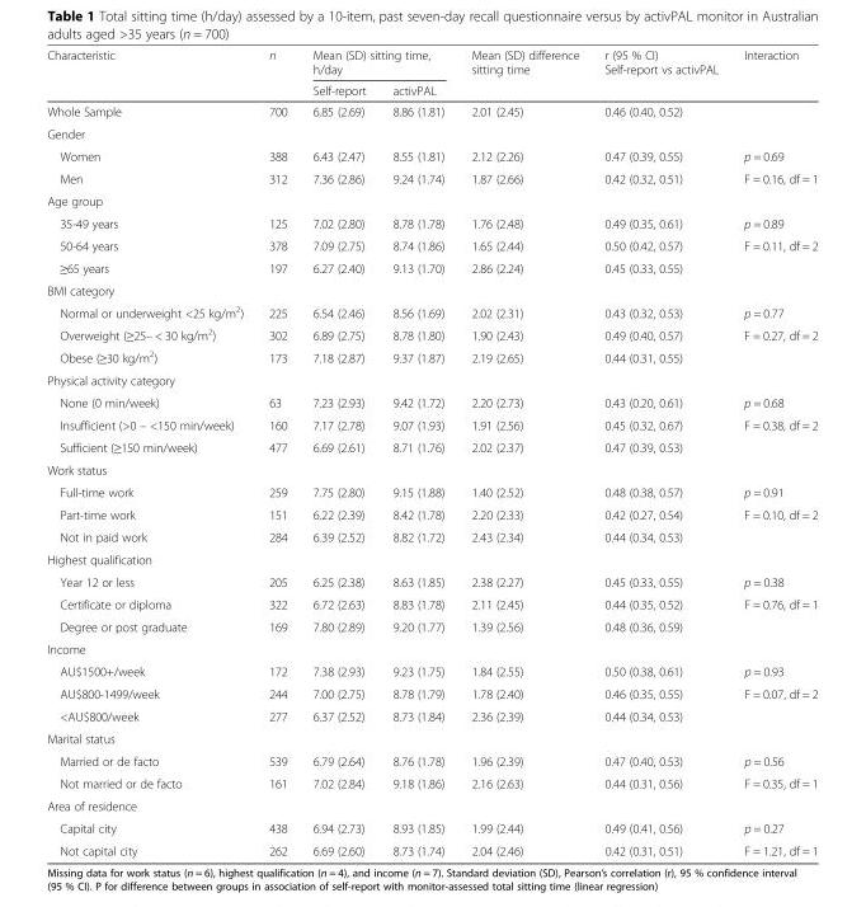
<table><thead><tr><td rowspan="2">Characteristic</td><td rowspan="2">n</td><td colspan="2">Mean (SD) sitting time, h/day</td><td rowspan="2">Mean (SD) difference sitting time</td><td rowspan="2">r (95 % CI) Self-report vs activPAL</td><td rowspan="2">Interaction</td></tr><tr><td>Self-report</td><td>activPAL</td></tr></thead><tbody><tr><td>Whole Sample</td><td>700</td><td>6.85 (2.69)</td><td>8.86 (1.81)</td><td>2.01 (2.45)</td><td>0.46 (0.40, 0.52)</td><td></td></tr><tr><td colspan="7">Gender</td></tr><tr><td>Women</td><td>388</td><td>6.43 (2.47)</td><td>8.55 (1.81)</td><td>2.12 (2.26)</td><td>0.47 (0.39, 0.55)</td><td>p = 0.69</td></tr><tr><td>Men</td><td>312</td><td>7.36 (2.86)</td><td>9.24 (1.74)</td><td>1.87 (2.66)</td><td>0.42 (0.32, 0.51)</td><td>F = 0.16, df = 1</td></tr><tr><td colspan="7">Age group</td></tr><tr><td>35-49 years</td><td>125</td><td>7.02 (2.80)</td><td>8.78 (1.78)</td><td>1.76 (2.48)</td><td>0.49 (0.35, 0.61)</td><td>p = 0.89</td></tr><tr><td>50-64 years</td><td>378</td><td>7.09 (2.75)</td><td>8.74 (1.86)</td><td>1.65 (2.44)</td><td>0.50 (0.42, 0.57)</td><td>F = 0.11, df = 2</td></tr><tr><td>≥65 years</td><td>197</td><td>6.27 (2.40)</td><td>9.13 (1.70)</td><td>2.86 (2.24)</td><td>0.45 (0.33, 0.55)</td><td></td></tr><tr><td colspan="7">BMI category</td></tr><tr><td>Normal or underweight &lt;25 kg/m<sup>2</sup>)</td><td>225</td><td>6.54 (2.46)</td><td>8.56 (1.69)</td><td>2.02 (2.31)</td><td>0.43 (0.32, 0.53)</td><td>p = 0.77</td></tr><tr><td>Overweight (≥25– &lt; 30 kg/m<sup>2</sup>)</td><td>302</td><td>6.89 (2.75)</td><td>8.78 (1.80)</td><td>1.90 (2.43)</td><td>0.49 (0.40, 0.57)</td><td>F = 0.27, df = 2</td></tr><tr><td>Obese (≥30 kg/m<sup>2</sup>)</td><td>173</td><td>7.18 (2.87)</td><td>9.37 (1.87)</td><td>2.19 (2.65)</td><td>0.44 (0.31, 0.55)</td><td></td></tr><tr><td colspan="7">Physical activity category</td></tr><tr><td>None (0 min/week)</td><td>63</td><td>7.23 (2.93)</td><td>9.42 (1.72)</td><td>2.20 (2.73)</td><td>0.43 (0.20, 0.61)</td><td>p = 0.68</td></tr><tr><td>Insufficient (&gt;0 – &lt;150 min/week)</td><td>160</td><td>7.17 (2.78)</td><td>9.07 (1.93)</td><td>1.91 (2.56)</td><td>0.45 (0.32, 0.67)</td><td>F = 0.38, df = 2</td></tr><tr><td>Sufficient (≥150 min/week)</td><td>477</td><td>6.69 (2.61)</td><td>8.71 (1.76)</td><td>2.02 (2.37)</td><td>0.47 (0.39, 0.53)</td><td></td></tr><tr><td colspan="7">Work status</td></tr><tr><td>Full-time work</td><td>259</td><td>7.75 (2.80)</td><td>9.15 (1.88)</td><td>1.40 (2.52)</td><td>0.48 (0.38, 0.57)</td><td>p = 0.91</td></tr><tr><td>Part-time work</td><td>151</td><td>6.22 (2.39)</td><td>8.42 (1.78)</td><td>2.20 (2.33)</td><td>0.42 (0.27, 0.54)</td><td>F = 0.10, df = 2</td></tr><tr><td>Not in paid work</td><td>284</td><td>6.39 (2.52)</td><td>8.82 (1.72)</td><td>2.43 (2.34)</td><td>0.44 (0.34, 0.53)</td><td></td></tr><tr><td colspan="7">Highest qualification</td></tr><tr><td>Year 12 or less</td><td>205</td><td>6.25 (2.38)</td><td>8.63 (1.85)</td><td>2.38 (2.27)</td><td>0.45 (0.33, 0.55)</td><td>p = 0.38</td></tr><tr><td>Certificate or diploma</td><td>322</td><td>6.72 (2.63)</td><td>8.83 (1.78)</td><td>2.11 (2.45)</td><td>0.44 (0.35, 0.52)</td><td>F = 0.76, df = 1</td></tr><tr><td>Degree or post graduate</td><td>169</td><td>7.80 (2.89)</td><td>9.20 (1.77)</td><td>1.39 (2.56)</td><td>0.48 (0.36, 0.59)</td><td></td></tr><tr><td colspan="7">Income</td></tr><tr><td>AU$1500+/week</td><td>172</td><td>7.38 (2.93)</td><td>9.23 (1.75)</td><td>1.84 (2.55)</td><td>0.50 (0.38, 0.61)</td><td>p = 0.93</td></tr><tr><td>AU$800-1499/week</td><td>244</td><td>7.00 (2.75)</td><td>8.78 (1.79)</td><td>1.78 (2.40)</td><td>0.46 (0.35, 0.55)</td><td>F = 0.07, df = 2</td></tr><tr><td>&lt;AU$800/week</td><td>277</td><td>6.37 (2.52)</td><td>8.73 (1.84)</td><td>2.36 (2.39)</td><td>0.44 (0.34, 0.53)</td><td></td></tr><tr><td colspan="7">Marital status</td></tr><tr><td>Married or de facto</td><td>539</td><td>6.79 (2.64)</td><td>8.76 (1.78)</td><td>1.96 (2.39)</td><td>0.47 (0.40, 0.53)</td><td>p = 0.56</td></tr><tr><td>Not married or de facto</td><td>161</td><td>7.02 (2.84)</td><td>9.18 (1.86)</td><td>2.16 (2.63)</td><td>0.44 (0.31, 0.56)</td><td>F = 0.35, df = 1</td></tr><tr><td colspan="7">Area of residence</td></tr><tr><td>Capital city</td><td>438</td><td>6.94 (2.73)</td><td>8.93 (1.85)</td><td>1.99 (2.44)</td><td>0.49 (0.41, 0.56)</td><td>p = 0.27</td></tr><tr><td>Not capital city</td><td>262</td><td>6.69 (2.60)</td><td>8.73 (1.74)</td><td>2.04 (2.46)</td><td>0.42 (0.31, 0.51)</td><td>F = 1.21, df = 1</td></tr></tbody></table>